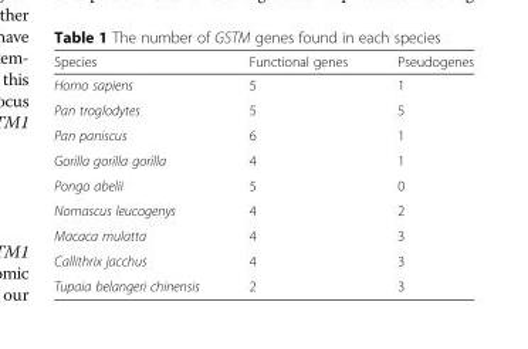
<table><thead><tr><td>Species</td><td>Functional genes</td><td>Pseudogenes</td></tr></thead><tbody><tr><td>Homo sapiens</td><td>5</td><td>1</td></tr><tr><td>Pan troglodytes</td><td>5</td><td>5</td></tr><tr><td>Pan paniscus</td><td>6</td><td>1</td></tr><tr><td>Gorilla gorilla gorilla</td><td>4</td><td>1</td></tr><tr><td>Pongo abelii</td><td>5</td><td>0</td></tr><tr><td>Nomascus leucogenys</td><td>4</td><td>2</td></tr><tr><td>Macaca mulatta</td><td>4</td><td>3</td></tr><tr><td>Callithrix jacchus</td><td>4</td><td>3</td></tr><tr><td>Tupaia belangeri chinensis</td><td>2</td><td>3</td></tr></tbody></table>